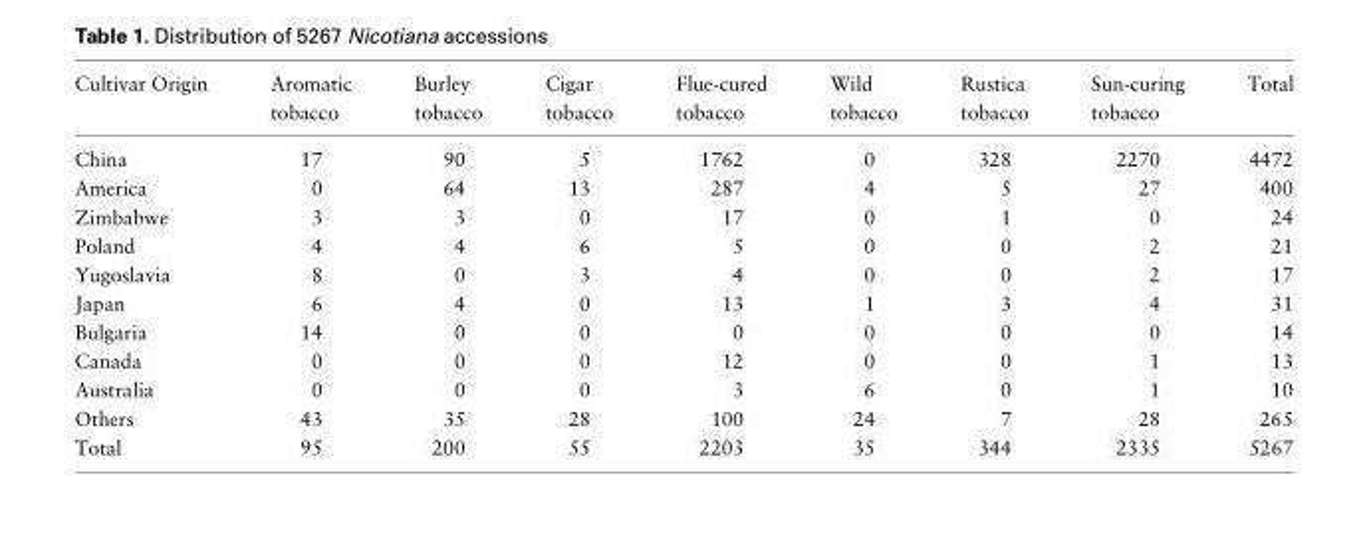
<table><thead><tr><td>Cultivar Origin</td><td>Aromatic tobacco</td><td>Burley tobacco</td><td>Cigar tobacco</td><td>Flue-cured tobacco</td><td>Wild tobacco</td><td>Rustica tobacco</td><td>Sun-curing tobacco</td><td>Total</td></tr></thead><tbody><tr><td>China</td><td>17</td><td>90</td><td>5</td><td>1762</td><td>0</td><td>328</td><td>2270</td><td>4472</td></tr><tr><td>America</td><td>0</td><td>64</td><td>13</td><td>287</td><td>4</td><td>5</td><td>27</td><td>400</td></tr><tr><td>Zimbabwe</td><td>3</td><td>3</td><td>0</td><td>17</td><td>0</td><td>1</td><td>0</td><td>24</td></tr><tr><td>Poland</td><td>4</td><td>4</td><td>6</td><td>5</td><td>0</td><td>0</td><td>2</td><td>21</td></tr><tr><td>Yugoslavia</td><td>8</td><td>0</td><td>3</td><td>4</td><td>0</td><td>0</td><td>2</td><td>17</td></tr><tr><td>Japan</td><td>6</td><td>4</td><td>0</td><td>13</td><td>1</td><td>3</td><td>4</td><td>31</td></tr><tr><td>Bulgaria</td><td>14</td><td>0</td><td>0</td><td>0</td><td>0</td><td>0</td><td>0</td><td>14</td></tr><tr><td>Canada</td><td>0</td><td>0</td><td>0</td><td>12</td><td>0</td><td>0</td><td>1</td><td>13</td></tr><tr><td>Australia</td><td>0</td><td>0</td><td>0</td><td>3</td><td>6</td><td>0</td><td>1</td><td>10</td></tr><tr><td>Others</td><td>43</td><td>35</td><td>28</td><td>100</td><td>24</td><td>7</td><td>28</td><td>265</td></tr><tr><td>Total</td><td>95</td><td>200</td><td>55</td><td>2203</td><td>35</td><td>344</td><td>2335</td><td>5267</td></tr></tbody></table>